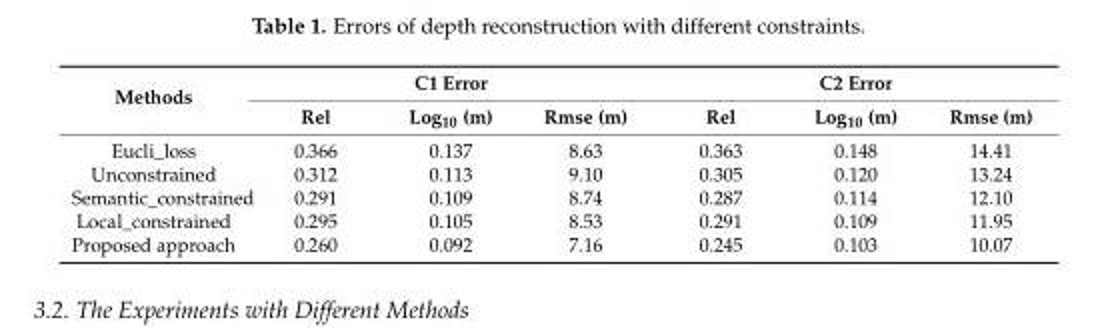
<table><thead><tr><td rowspan="2">Methods</td><td colspan="3">C1 Error</td><td colspan="3">C2 Error</td></tr><tr><td>Rel</td><td>Log<sub>10</sub> (m)</td><td>Rmse (m)</td><td>Rel</td><td>Log<sub>10</sub> (m)</td><td>Rmse (m)</td></tr></thead><tbody><tr><td>Eucli_loss</td><td>0.366</td><td>0.137</td><td>8.63</td><td>0.363</td><td>0.148</td><td>14.41</td></tr><tr><td>Unconstrained</td><td>0.312</td><td>0.113</td><td>9.10</td><td>0.305</td><td>0.120</td><td>13.24</td></tr><tr><td>Semantic_constrained</td><td>0.291</td><td>0.109</td><td>8.74</td><td>0.287</td><td>0.114</td><td>12.10</td></tr><tr><td>Local_constrained</td><td>0.295</td><td>0.105</td><td>8.53</td><td>0.291</td><td>0.109</td><td>11.95</td></tr><tr><td>Proposed approach</td><td>0.260</td><td>0.092</td><td>7.16</td><td>0.245</td><td>0.103</td><td>10.07</td></tr></tbody></table>